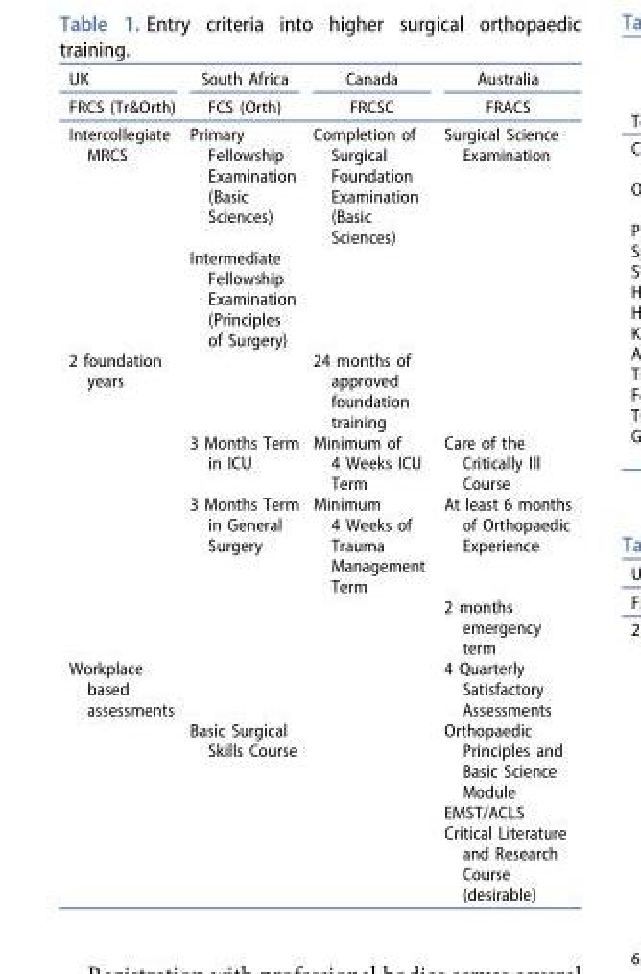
<table><thead><tr><td rowspan="2">UK FRCS (Tr&amp;Orth)</td><td rowspan="2">South Africa FCS (Orth)</td><td rowspan="2">Canada FRCSC</td><td rowspan="2">Australia FRACS</td></tr><tr></tr></thead><tbody><tr><td rowspan="2">Intercollegiate MRCS</td><td>Primary Fellowship Examination (Basic Sciences)</td><td>Completion of Surgical Foundation Examination (Basic Sciences)</td><td>Surgical Science Examination</td></tr><tr><td>Intermediate Fellowship Examination (Principles of Surgery)</td><td></td><td></td></tr><tr><td rowspan="4">2 foundation years</td><td></td><td>24 months of approved foundation training</td><td></td></tr><tr><td>3 Months Term in ICU</td><td>Minimum of 4 Weeks ICU Term</td><td>Care of the Critically Ill Course</td></tr><tr><td>3 Months Term in General Surgery</td><td>Minimum 4 Weeks of Trauma Management Term</td><td>At least 6 months of Orthopaedic Experience</td></tr><tr><td></td><td></td><td>2 months emergency term</td></tr><tr><td rowspan="4">Workplace based assessments</td><td></td><td></td><td>4 Quarterly Satisfactory Assessments</td></tr><tr><td>Basic Surgical Skills Course</td><td></td><td>Orthopaedic Principles and Basic Science Module</td></tr><tr><td></td><td></td><td>EMST/ACLS</td></tr><tr><td></td><td></td><td>Critical Literature and Research Course (desirable)</td></tr></tbody></table>